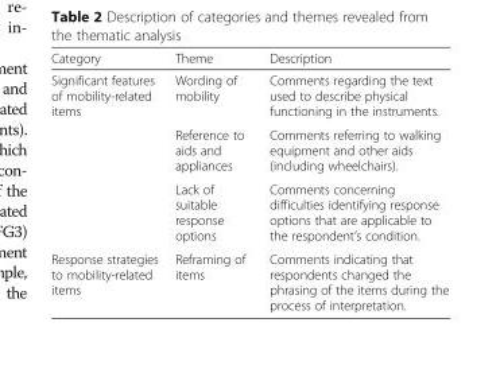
<table><thead><tr><td>Category</td><td>Theme</td><td>Description</td></tr></thead><tbody><tr><td rowspan="3">Significant features of mobility-related items</td><td>Wording of mobility</td><td>Comments regarding the text used to describe physical functioning in the instruments.</td></tr><tr><td>Reference to aids and appliances</td><td>Comments referring to walking equipment and other aids (including wheelchairs).</td></tr><tr><td>Lack of suitable response options</td><td>Comments concerning difficulties identifying response options that are applicable to the respondent’s condition.</td></tr><tr><td>Response strategies to mobility-related items</td><td>Reframing of items</td><td>Comments indicating that respondents changed the phrasing of the items during the process of interpretation.</td></tr></tbody></table>